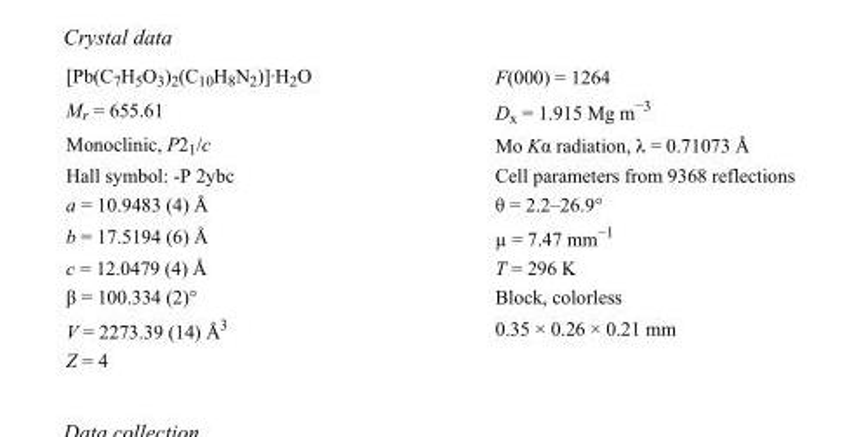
<table><tbody><tr><td>[Pb(C<sub>7</sub>H<sub>5</sub>O<sub>3</sub>)<sub>2</sub>(C<sub>10</sub>H<sub>8</sub>N<sub>2</sub>)]·H<sub>2</sub>O</td><td>F(000) = 1264</td></tr><tr><td>M<sub>r</sub> = 655.61</td><td>D<sub>x</sub> = 1.915 Mg m<sup>−3</sup></td></tr><tr><td>Monoclinic, P2<sub>1</sub>/c</td><td>Mo Kα radiation, λ = 0.71073 Å</td></tr><tr><td>Hall symbol: -P 2ybc</td><td>Cell parameters from 9368 reflections</td></tr><tr><td>a = 10.9483 (4) Å</td><td>θ = 2.2–26.9°</td></tr><tr><td>b = 17.5194 (6) Å</td><td>µ = 7.47 mm<sup>−1</sup></td></tr><tr><td>c = 12.0479 (4) Å</td><td>T = 296 K</td></tr><tr><td>β = 100.334 (2)°</td><td>Block, colorless</td></tr><tr><td>V = 2273.39 (14) Å<sup>3</sup></td><td>0.35 × 0.26 × 0.21 mm</td></tr><tr><td>Z = 4</td><td></td></tr></tbody></table>